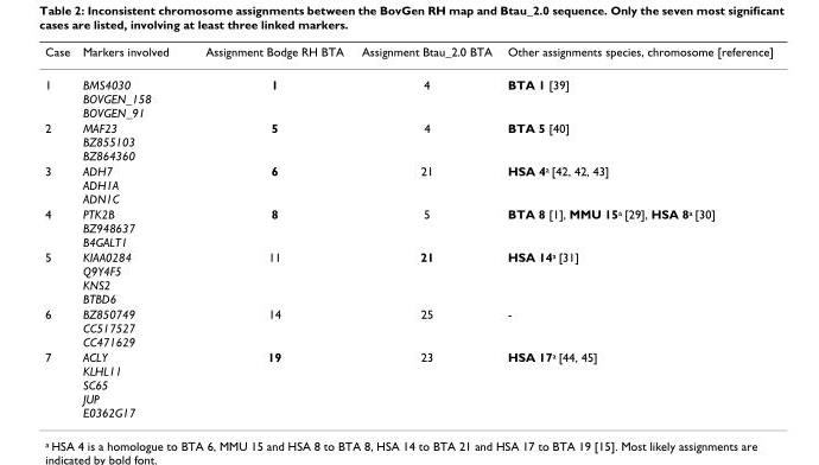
<table><thead><tr><td>Case</td><td>Markers involved</td><td>Assignment Bodge RH BTA</td><td>Assignment Btau_2.0 BTA</td><td>Other assignments species, chromosome [reference]</td></tr></thead><tbody><tr><td>1</td><td>BMS4030 BOVGEN_158 BOVGEN_91</td><td>1</td><td>4</td><td>BTA 1 [39]</td></tr><tr><td>2</td><td>MAF23 BZ855103 BZ864360</td><td>5</td><td>4</td><td>BTA 5 [40]</td></tr><tr><td>3</td><td>ADH7 ADH1A ADN1C</td><td>6</td><td>21</td><td>HSA 4a [42, 42, 43]</td></tr><tr><td>4</td><td>PTK2B BZ948637 B4GALT1</td><td>8</td><td>5</td><td>BTA 8 [1], MMU 15a [29], HSA 8a [30]</td></tr><tr><td>5</td><td>KIAA0284 Q9Y4F5 KNS2 BTBD6</td><td>11</td><td>21</td><td>HSA 14a [31]</td></tr><tr><td>6</td><td>BZ850749 CC517527 CC471629</td><td>14</td><td>25</td><td>-</td></tr><tr><td>7</td><td>ACLY KLHL11 SC65 JUP E0362G17</td><td>19</td><td>23</td><td>HSA 17a [44, 45]</td></tr></tbody></table>